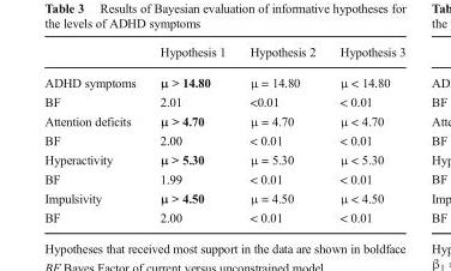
<table><thead><tr><td></td><td>Hypothesis 1</td><td>Hypothesis 2</td><td>Hypothesis 3</td></tr></thead><tbody><tr><td>ADHD symptoms</td><td>μ &gt; 14.80</td><td>μ = 14.80</td><td>μ &lt; 14.80</td></tr><tr><td>BF</td><td>2.01</td><td>&lt;0.01</td><td>&lt; 0.01</td></tr><tr><td>Attention deficits</td><td>μ &gt; 4.70</td><td>μ = 4.70</td><td>μ &lt; 4.70</td></tr><tr><td>BF</td><td>2.00</td><td>&lt; 0.01</td><td>&lt; 0.01</td></tr><tr><td>Hyperactivity</td><td>μ &gt; 5.30</td><td>μ = 5.30</td><td>μ &lt; 5.30</td></tr><tr><td>BF</td><td>1.99</td><td>&lt; 0.01</td><td>&lt; 0.01</td></tr><tr><td>Impulsivity</td><td>μ &gt; 4.50</td><td>μ = 4.50</td><td>μ &lt; 4.50</td></tr><tr><td>BF</td><td>2.00</td><td>&lt; 0.01</td><td>&lt; 0.01</td></tr></tbody></table>